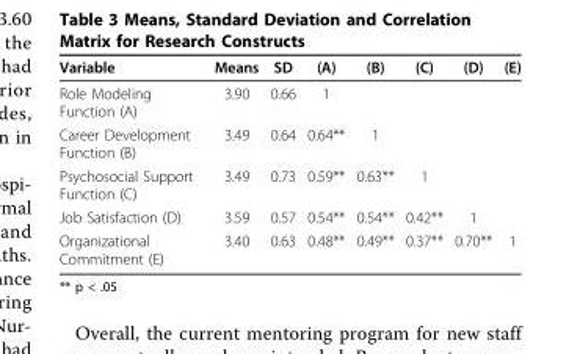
<table><thead><tr><td>Variable</td><td>Means</td><td>SD</td><td>(A)</td><td>(B)</td><td>(C)</td><td>(D)</td><td>(E)</td></tr></thead><tbody><tr><td>Role Modeling Function (A)</td><td>3.90</td><td>0.66</td><td>1</td><td></td><td></td><td></td><td></td></tr><tr><td>Career Development Function (B)</td><td>3.49</td><td>0.64</td><td>0.64**</td><td>1</td><td></td><td></td><td></td></tr><tr><td>Psychosocial Support Function (C)</td><td>3.49</td><td>0.73</td><td>0.59**</td><td>0.63**</td><td>1</td><td></td><td></td></tr><tr><td>Job Satisfaction (D)</td><td>3.59</td><td>0.57</td><td>0.54**</td><td>0.54**</td><td>0.42**</td><td>1</td><td></td></tr><tr><td>Organizational Commitment (E)</td><td>3.40</td><td>0.63</td><td>0.48**</td><td>0.49**</td><td>0.37**</td><td>0.70**</td><td>1</td></tr><tr><td colspan="4">** p &lt; .05</td><td></td><td></td><td></td><td></td></tr></tbody></table>